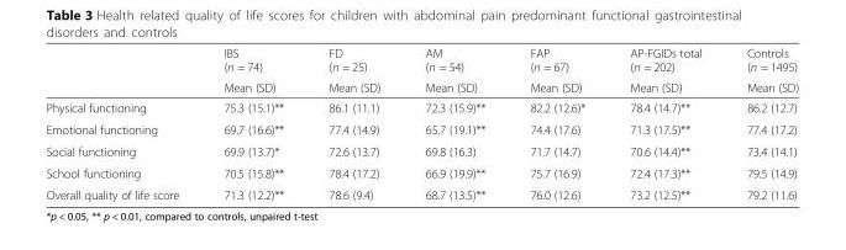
<table><thead><tr><td rowspan="2"></td><td rowspan="2">IBS (n = 74) Mean (SD)</td><td rowspan="2">FD (n = 25) Mean (SD)</td><td rowspan="2">AM (n = 54) Mean (SD)</td><td rowspan="2">FAP (n = 67) Mean (SD)</td><td rowspan="2">AP-FGIDs total (n = 202) Mean (SD)</td><td rowspan="2">Controls (n = 1495) Mean (SD)</td></tr><tr></tr></thead><tbody><tr><td>Physical functioning</td><td>75.3 (15.1)**</td><td>86.1 (11.1)</td><td>72.3 (15.9)**</td><td>82.2 (12.6)*</td><td>78.4 (14.7)**</td><td>86.2 (12.7)</td></tr><tr><td>Emotional functioning</td><td>69.7 (16.6)**</td><td>77.4 (14.9)</td><td>65.7 (19.1)**</td><td>74.4 (17.6)</td><td>71.3 (17.5)**</td><td>77.4 (17.2)</td></tr><tr><td>Social functioning</td><td>69.9 (13.7)*</td><td>72.6 (13.7)</td><td>69.8 (16.3)</td><td>71.7 (14.7)</td><td>70.6 (14.4)**</td><td>73.4 (14.1)</td></tr><tr><td>School functioning</td><td>70.5 (15.8)**</td><td>78.4 (17.2)</td><td>66.9 (19.9)**</td><td>75.7 (16.9)</td><td>72.4 (17.3)**</td><td>79.5 (14.9)</td></tr><tr><td>Overall quality of life score</td><td>71.3 (12.2)**</td><td>78.6 (9.4)</td><td>68.7 (13.5)**</td><td>76.0 (12.6)</td><td>73.2 (12.5)**</td><td>79.2 (11.6)</td></tr></tbody></table>